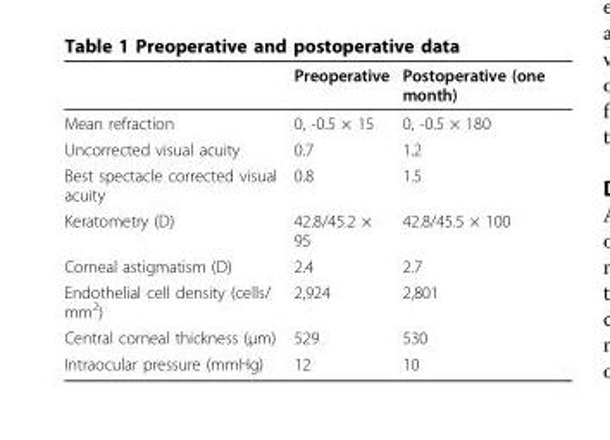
<table><thead><tr><td></td><td>Preoperative</td><td>Postoperative (one month)</td></tr></thead><tbody><tr><td>Mean refraction</td><td>0, -0.5 × 15</td><td>0, -0.5 × 180</td></tr><tr><td>Uncorrected visual acuity</td><td>0.7</td><td>1.2</td></tr><tr><td>Best spectacle corrected visual acuity</td><td>0.8</td><td>1.5</td></tr><tr><td>Keratometry (D)</td><td>42.8/45.2 × 95</td><td>42.8/45.5 × 100</td></tr><tr><td>Corneal astigmatism (D)</td><td>2.4</td><td>2.7</td></tr><tr><td>Endothelial cell density (cells/ mm<sup>2</sup>)</td><td>2,924</td><td>2,801</td></tr><tr><td>Central corneal thickness (μm)</td><td>529</td><td>530</td></tr><tr><td>Intraocular pressure (mmHg)</td><td>12</td><td>10</td></tr></tbody></table>